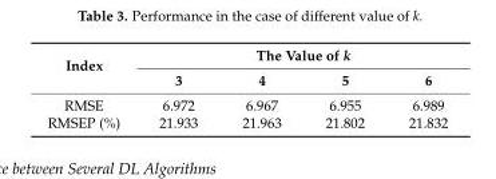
<table><thead><tr><td rowspan="2">Index</td><td colspan="4">The Value of k</td></tr><tr><td>3</td><td>4</td><td>5</td><td>6</td></tr></thead><tbody><tr><td>RMSE</td><td>6.972</td><td>6.967</td><td>6.955</td><td>6.989</td></tr><tr><td>RMSEP (%)</td><td>21.933</td><td>21.963</td><td>21.802</td><td>21.832</td></tr></tbody></table>